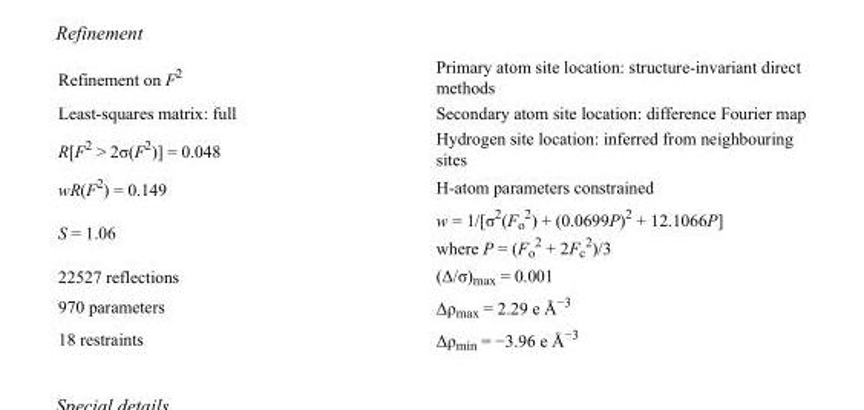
<table><tbody><tr><td>Refinement on F<sup>2</sup></td><td>Primary atom site location: structure-invariant direct methods</td></tr><tr><td>Least-squares matrix: full</td><td>Secondary atom site location: difference Fourier map</td></tr><tr><td>R[F<sup>2</sup> &gt; 2σ(F<sup>2</sup>)] = 0.048</td><td>Hydrogen site location: inferred from neighbouring sites</td></tr><tr><td>wR(F<sup>2</sup>) = 0.149</td><td>H-atom parameters constrained</td></tr><tr><td>S = 1.06</td><td>w = 1/[σ<sup>2</sup>(F<sub>o</sub> <sup>2</sup>) + (0.0699P)<sup>2</sup> + 12.1066P] where P = (F<sub>o</sub> <sup>2</sup> + 2F<sub>c</sub> <sup>2</sup>)/3</td></tr><tr><td>22527 reflections</td><td>(Δ/σ)<sub>max</sub> = 0.001</td></tr><tr><td>970 parameters</td><td>Δρ<sub>max</sub> = 2.29 e Å<sup>−3</sup></td></tr><tr><td>18 restraints</td><td>Δρ<sub>min</sub> = −3.96 e Å<sup>−3</sup></td></tr></tbody></table>